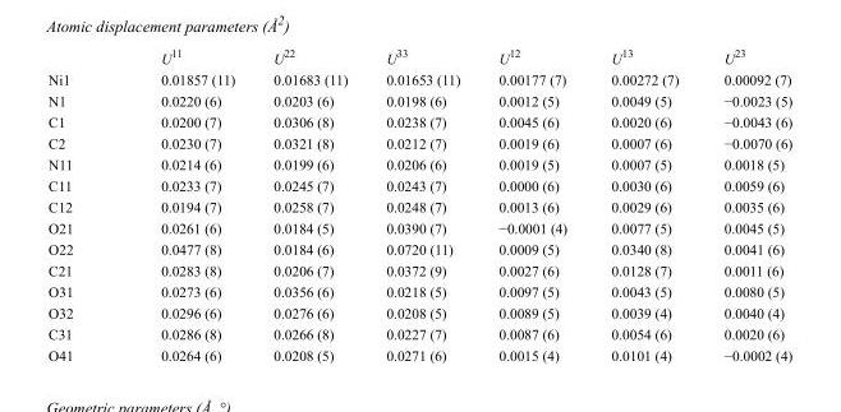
<table><thead><tr><td></td><td>U<sup>11</sup></td><td>U<sup>22</sup></td><td>U<sup>33</sup></td><td>U<sup>12</sup></td><td>U<sup>13</sup></td><td>U<sup>23</sup></td></tr></thead><tbody><tr><td>Ni1</td><td>0.01857 (11)</td><td>0.01683 (11)</td><td>0.01653 (11)</td><td>0.00177 (7)</td><td>0.00272 (7)</td><td>0.00092 (7)</td></tr><tr><td>N1</td><td>0.0220 (6)</td><td>0.0203 (6)</td><td>0.0198 (6)</td><td>0.0012 (5)</td><td>0.0049 (5)</td><td>−0.0023 (5)</td></tr><tr><td>C1</td><td>0.0200 (7)</td><td>0.0306 (8)</td><td>0.0238 (7)</td><td>0.0045 (6)</td><td>0.0020 (6)</td><td>−0.0043 (6)</td></tr><tr><td>C2</td><td>0.0230 (7)</td><td>0.0321 (8)</td><td>0.0212 (7)</td><td>0.0019 (6)</td><td>0.0007 (6)</td><td>−0.0070 (6)</td></tr><tr><td>N11</td><td>0.0214 (6)</td><td>0.0199 (6)</td><td>0.0206 (6)</td><td>0.0019 (5)</td><td>0.0007 (5)</td><td>0.0018 (5)</td></tr><tr><td>C11</td><td>0.0233 (7)</td><td>0.0245 (7)</td><td>0.0243 (7)</td><td>0.0000 (6)</td><td>0.0030 (6)</td><td>0.0059 (6)</td></tr><tr><td>C12</td><td>0.0194 (7)</td><td>0.0258 (7)</td><td>0.0248 (7)</td><td>0.0013 (6)</td><td>0.0029 (6)</td><td>0.0035 (6)</td></tr><tr><td>O21</td><td>0.0261 (6)</td><td>0.0184 (5)</td><td>0.0390 (7)</td><td>−0.0001 (4)</td><td>0.0077 (5)</td><td>0.0045 (5)</td></tr><tr><td>O22</td><td>0.0477 (8)</td><td>0.0184 (6)</td><td>0.0720 (11)</td><td>0.0009 (5)</td><td>0.0340 (8)</td><td>0.0041 (6)</td></tr><tr><td>C21</td><td>0.0283 (8)</td><td>0.0206 (7)</td><td>0.0372 (9)</td><td>0.0027 (6)</td><td>0.0128 (7)</td><td>0.0011 (6)</td></tr><tr><td>O31</td><td>0.0273 (6)</td><td>0.0356 (6)</td><td>0.0218 (5)</td><td>0.0097 (5)</td><td>0.0043 (5)</td><td>0.0080 (5)</td></tr><tr><td>O32</td><td>0.0296 (6)</td><td>0.0276 (6)</td><td>0.0208 (5)</td><td>0.0089 (5)</td><td>0.0039 (4)</td><td>0.0040 (4)</td></tr><tr><td>C31</td><td>0.0286 (8)</td><td>0.0266 (8)</td><td>0.0227 (7)</td><td>0.0087 (6)</td><td>0.0054 (6)</td><td>0.0020 (6)</td></tr><tr><td>O41</td><td>0.0264 (6)</td><td>0.0208 (5)</td><td>0.0271 (6)</td><td>0.0015 (4)</td><td>0.0101 (4)</td><td>−0.0002 (4)</td></tr></tbody></table>